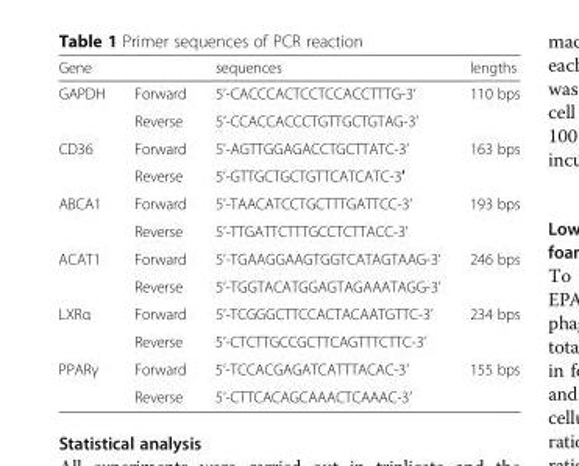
<table><thead><tr><td>Gene</td><td></td><td>sequences</td><td>lengths</td></tr></thead><tbody><tr><td rowspan="2">GAPDH</td><td>Forward</td><td>5’-CACCCACTCCTCCACCTTTG-3’</td><td rowspan="2">110 bps</td></tr><tr><td>Reverse</td><td>5’-CCACCACCCTGTTGCTGTAG-3’</td></tr><tr><td rowspan="2">CD36</td><td>Forward</td><td>5’-AGTTGGAGACCTGCTTATC-3’</td><td rowspan="2">163 bps</td></tr><tr><td>Reverse</td><td>5’-GTTGCTGCTGTTCATCATC-3′</td></tr><tr><td rowspan="2">ABCA1</td><td>Forward</td><td>5’-TAACATCCTGCTTTGATTCC-3’</td><td rowspan="2">193 bps</td></tr><tr><td>Reverse</td><td>5’-TTGATTCTTTGCCTCTTACC-3’</td></tr><tr><td rowspan="2">ACAT1</td><td>Forward</td><td>5’-TGAAGGAAGTGGTCATAGTAAG-3’</td><td rowspan="2">246 bps</td></tr><tr><td>Reverse</td><td>5’-TGGTACATGGAGTAGAAATAGG-3’</td></tr><tr><td rowspan="2">LXRα</td><td>Forward</td><td>5’-TCGGGCTTCCACTACAATGTTC-3’</td><td rowspan="2">234 bps</td></tr><tr><td>Reverse</td><td>5’-CTCTTGCCGCTTCAGTTTCTTC-3’</td></tr><tr><td rowspan="2">PPARγ</td><td>Forward</td><td>5’-TCCACGAGATCATTTACAC-3’</td><td rowspan="2">155 bps</td></tr><tr><td>Reverse</td><td>5’-CTTCACAGCAAACTCAAAC-3’</td></tr></tbody></table>